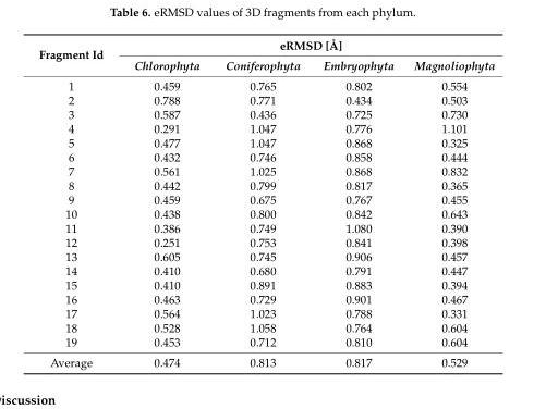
<table><thead><tr><td rowspan="2">Fragment Id</td><td colspan="4">eRMSD [Å]</td></tr><tr><td>Chlorophyta</td><td>Coniferophyta</td><td>Embryophyta</td><td>Magnoliophyta</td></tr></thead><tbody><tr><td>1</td><td>0.459</td><td>0.765</td><td>0.802</td><td>0.554</td></tr><tr><td>2</td><td>0.788</td><td>0.771</td><td>0.434</td><td>0.503</td></tr><tr><td>3</td><td>0.587</td><td>0.436</td><td>0.725</td><td>0.730</td></tr><tr><td>4</td><td>0.291</td><td>1.047</td><td>0.776</td><td>1.101</td></tr><tr><td>5</td><td>0.477</td><td>1.047</td><td>0.868</td><td>0.325</td></tr><tr><td>6</td><td>0.432</td><td>0.746</td><td>0.858</td><td>0.444</td></tr><tr><td>7</td><td>0.561</td><td>1.025</td><td>0.868</td><td>0.832</td></tr><tr><td>8</td><td>0.442</td><td>0.799</td><td>0.817</td><td>0.365</td></tr><tr><td>9</td><td>0.459</td><td>0.675</td><td>0.767</td><td>0.455</td></tr><tr><td>10</td><td>0.438</td><td>0.800</td><td>0.842</td><td>0.643</td></tr><tr><td>11</td><td>0.386</td><td>0.749</td><td>1.080</td><td>0.390</td></tr><tr><td>12</td><td>0.251</td><td>0.753</td><td>0.841</td><td>0.398</td></tr><tr><td>13</td><td>0.605</td><td>0.745</td><td>0.906</td><td>0.457</td></tr><tr><td>14</td><td>0.410</td><td>0.680</td><td>0.791</td><td>0.447</td></tr><tr><td>15</td><td>0.410</td><td>0.891</td><td>0.883</td><td>0.394</td></tr><tr><td>16</td><td>0.463</td><td>0.729</td><td>0.901</td><td>0.467</td></tr><tr><td>17</td><td>0.564</td><td>1.023</td><td>0.788</td><td>0.331</td></tr><tr><td>18</td><td>0.528</td><td>1.058</td><td>0.764</td><td>0.604</td></tr><tr><td>19</td><td>0.453</td><td>0.712</td><td>0.810</td><td>0.604</td></tr><tr><td>Average</td><td>0.474</td><td>0.813</td><td>0.817</td><td>0.529</td></tr></tbody></table>